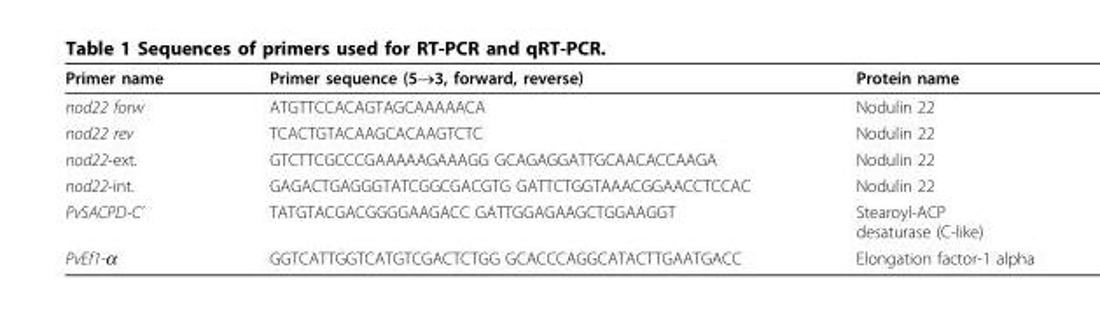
<table><thead><tr><td>Primer name</td><td>Primer sequence (5→3, forward, reverse)</td><td>Protein name</td></tr></thead><tbody><tr><td>nod22 forw</td><td>ATGTTCCACAGTAGCAAAAACA</td><td>Nodulin 22</td></tr><tr><td>nod22 rev</td><td>TCACTGTACAAGCACAAGTCTC</td><td>Nodulin 22</td></tr><tr><td>nod22-ext.</td><td>GTCTTCGCCCGAAAAAGAAAGG GCAGAGGATTGCAACACCAAGA</td><td>Nodulin 22</td></tr><tr><td>nod22-int.</td><td>GAGACTGAGGGTATCGGCGACGTG GATTCTGGTAAACGGAACCTCCAC</td><td>Nodulin 22</td></tr><tr><td>PvSACPD-C’</td><td>TATGTACGACGGGGAAGACC GATTGGAGAAGCTGGAAGGT</td><td>Stearoyl-ACP desaturase (C-like)</td></tr><tr><td>PvEf1-α</td><td>GGTCATTGGTCATGTCGACTCTGG GCACCCAGGCATACTTGAATGACC</td><td>Elongation factor-1 alpha</td></tr></tbody></table>